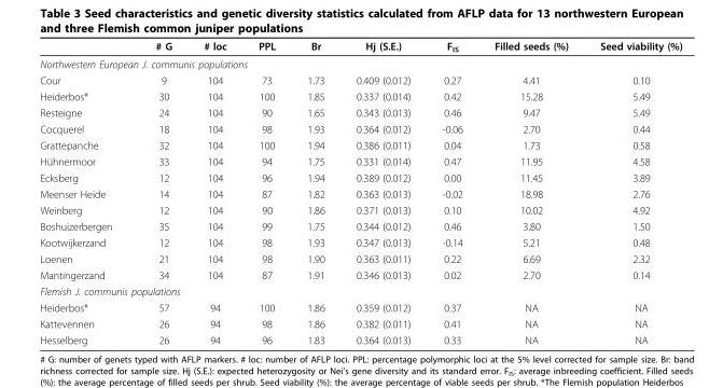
<table><thead><tr><td></td><td># G</td><td># loc</td><td>PPL</td><td>Br</td><td>Hj (S.E.)</td><td>F<sub>IS</sub></td><td>Filled seeds (%)</td><td>Seed viability (%)</td></tr></thead><tbody><tr><td colspan="9">Northwestern European J. communis populations</td></tr><tr><td>Cour</td><td>9</td><td>104</td><td>73</td><td>1.73</td><td>0.409 (0.012)</td><td>0.27</td><td>4.41</td><td>0.10</td></tr><tr><td>Heiderbos*</td><td>30</td><td>104</td><td>100</td><td>1.85</td><td>0.337 (0.014)</td><td>0.42</td><td>15.28</td><td>5.49</td></tr><tr><td>Resteigne</td><td>24</td><td>104</td><td>90</td><td>1.65</td><td>0.343 (0.013)</td><td>0.46</td><td>9.47</td><td>5.49</td></tr><tr><td>Cocquerel</td><td>18</td><td>104</td><td>98</td><td>1.93</td><td>0.364 (0.012)</td><td>-0.06</td><td>2.70</td><td>0.44</td></tr><tr><td>Grattepanche</td><td>32</td><td>104</td><td>100</td><td>1.94</td><td>0.386 (0.011)</td><td>0.04</td><td>1.73</td><td>0.58</td></tr><tr><td>Hühnermoor</td><td>33</td><td>104</td><td>94</td><td>1.75</td><td>0.331 (0.014)</td><td>0.47</td><td>11.95</td><td>4.58</td></tr><tr><td>Ecksberg</td><td>12</td><td>104</td><td>96</td><td>1.94</td><td>0.389 (0.012)</td><td>0.00</td><td>11.45</td><td>3.89</td></tr><tr><td>Meenser Heide</td><td>14</td><td>104</td><td>87</td><td>1.82</td><td>0.363 (0.013)</td><td>-0.02</td><td>18.98</td><td>2.76</td></tr><tr><td>Weinberg</td><td>12</td><td>104</td><td>90</td><td>1.86</td><td>0.371 (0.013)</td><td>0.10</td><td>10.02</td><td>4.92</td></tr><tr><td>Boshuizerbergen</td><td>35</td><td>104</td><td>99</td><td>1.75</td><td>0.344 (0.012)</td><td>0.46</td><td>3.80</td><td>1.50</td></tr><tr><td>Kootwijkerzand</td><td>12</td><td>104</td><td>98</td><td>1.93</td><td>0.347 (0.013)</td><td>-0.14</td><td>5.21</td><td>0.48</td></tr><tr><td>Loenen</td><td>21</td><td>104</td><td>98</td><td>1.90</td><td>0.363 (0.011)</td><td>0.22</td><td>6.69</td><td>2.32</td></tr><tr><td>Mantingerzand</td><td>34</td><td>104</td><td>87</td><td>1.91</td><td>0.346 (0.013)</td><td>0.02</td><td>2.70</td><td>0.14</td></tr><tr><td colspan="9">Flemish J. communis populations</td></tr><tr><td>Heiderbos*</td><td>57</td><td>94</td><td>100</td><td>1.86</td><td>0.359 (0.012)</td><td>0.37</td><td>NA</td><td>NA</td></tr><tr><td>Kattevennen</td><td>26</td><td>94</td><td>98</td><td>1.86</td><td>0.382 (0.011)</td><td>0.41</td><td>NA</td><td>NA</td></tr><tr><td>Hesselberg</td><td>26</td><td>94</td><td>96</td><td>1.83</td><td>0.364 (0.013)</td><td>0.33</td><td>NA</td><td>NA</td></tr></tbody></table>